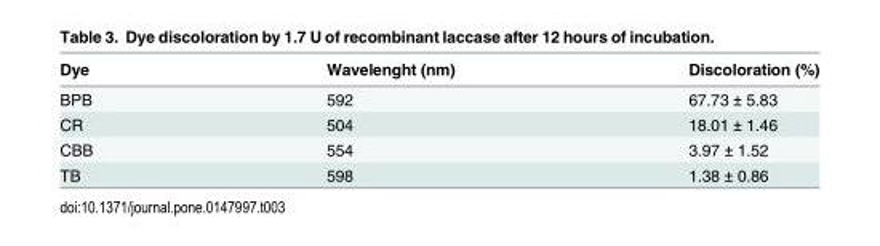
<table><thead><tr><td>Dye</td><td>Wavelenght (nm)</td><td>Discoloration (%)</td></tr></thead><tbody><tr><td>BPB</td><td>592</td><td>67.73 ± 5.83</td></tr><tr><td>CR</td><td>504</td><td>18.01 ± 1.46</td></tr><tr><td>CBB</td><td>554</td><td>3.97 ± 1.52</td></tr><tr><td>TB</td><td>598</td><td>1.38 ± 0.86</td></tr></tbody></table>